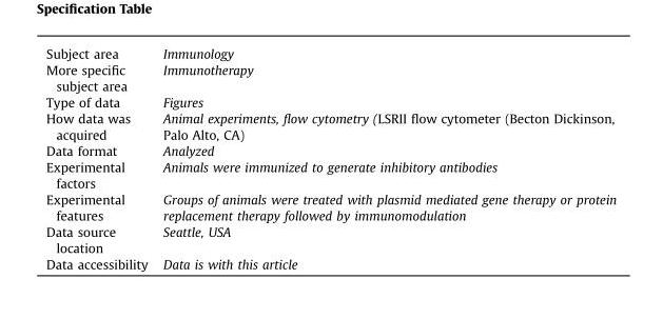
<table><tbody><tr><td>Subject area</td><td>Immunology</td></tr><tr><td>More specific subject area</td><td>Immunotherapy</td></tr><tr><td>Type of data</td><td>Figures</td></tr><tr><td>How data was acquired</td><td>Animal experiments, flow cytometry (LSRII flow cytometer (Becton Dickinson, Palo Alto, CA)</td></tr><tr><td>Data format</td><td>Analyzed</td></tr><tr><td>Experimental factors</td><td>Animals were immunized to generate inhibitory antibodies</td></tr><tr><td>Experimental features</td><td>Groups of animals were treated with plasmid mediated gene therapy or protein replacement therapy followed by immunomodulation</td></tr><tr><td>Data source location</td><td>Seattle, USA</td></tr><tr><td>Data accessibility</td><td>Data is with this article</td></tr></tbody></table>